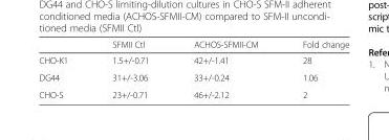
<table><thead><tr><td></td><td>SFMII Ctl</td><td>ACHOS-SFMII-CM</td><td>Fold change</td></tr></thead><tbody><tr><td>CHO-K1</td><td>1.5+/-0.71</td><td>42+/-1.41</td><td>28</td></tr><tr><td>DG44</td><td>31+/-3.06</td><td>33+/-0.24</td><td>1.06</td></tr><tr><td>CHO-S</td><td>23+/-0.71</td><td>46+/-2.12</td><td>2</td></tr></tbody></table>